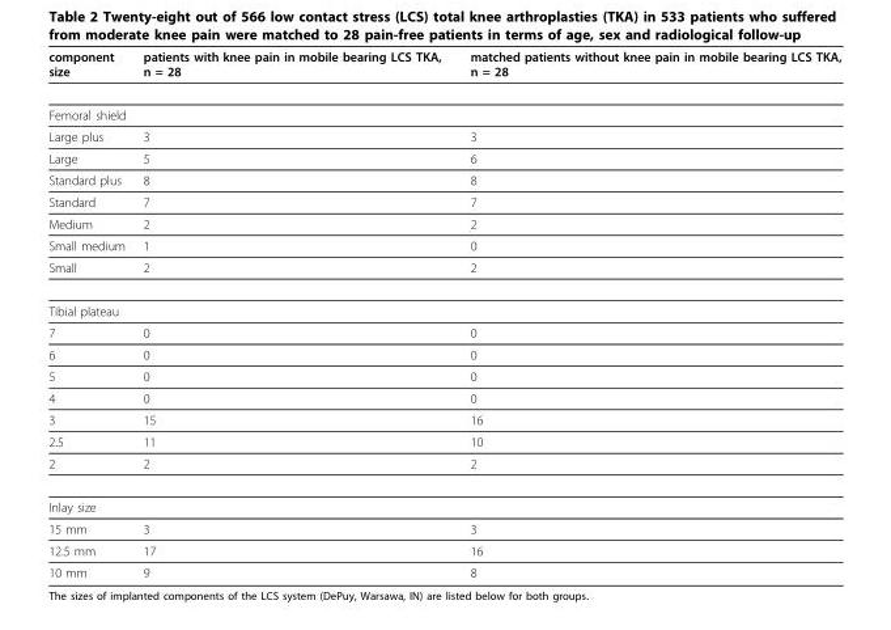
<table><thead><tr><td>component size</td><td>patients with knee pain in mobile bearing LCS TKA, n = 28</td><td>matched patients without knee pain in mobile bearing LCS TKA, n = 28</td></tr></thead><tbody><tr><td colspan="3">Femoral shield</td></tr><tr><td>Large plus</td><td>3</td><td>3</td></tr><tr><td>Large</td><td>5</td><td>6</td></tr><tr><td>Standard plus</td><td>8</td><td>8</td></tr><tr><td>Standard</td><td>7</td><td>7</td></tr><tr><td>Medium</td><td>2</td><td>2</td></tr><tr><td>Small medium</td><td>1</td><td>0</td></tr><tr><td>Small</td><td>2</td><td>2</td></tr><tr><td colspan="3">Tibial plateau</td></tr><tr><td>7</td><td>0</td><td>0</td></tr><tr><td>6</td><td>0</td><td>0</td></tr><tr><td>5</td><td>0</td><td>0</td></tr><tr><td>4</td><td>0</td><td>0</td></tr><tr><td>3</td><td>15</td><td>16</td></tr><tr><td>2.5</td><td>11</td><td>10</td></tr><tr><td>2</td><td>2</td><td>2</td></tr><tr><td colspan="3">Inlay size</td></tr><tr><td>15 mm</td><td>3</td><td>3</td></tr><tr><td>12.5 mm</td><td>17</td><td>16</td></tr><tr><td>10 mm</td><td>9</td><td>8</td></tr></tbody></table>